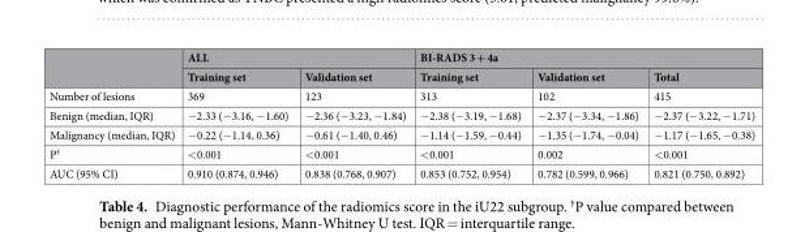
<table><thead><tr><td rowspan="2"></td><td colspan="2">ALL</td><td colspan="3">BI-RADS 3 + 4a</td></tr><tr><td>Training set</td><td>Validation set</td><td>Training set</td><td>Validation set</td><td>Total</td></tr></thead><tbody><tr><td>Number of lesions</td><td>369</td><td>123</td><td>313</td><td>102</td><td>415</td></tr><tr><td>Benign (median, IQR)</td><td>−2.33 (−3.16, −1.60)</td><td>−2.36 (−3.23, −1.84)</td><td>−2.38 (−3.19, −1.68)</td><td>−2.37 (−3.34, −1.86)</td><td>−2.37 (−3.22, −1.71)</td></tr><tr><td>Malignancy (median, IQR)</td><td>−0.22 (−1.14, 0.36)</td><td>−0.61 (−1.40, 0.46)</td><td>−1.14 (−1.59, −0.44)</td><td>−1.35 (−1.74, −0.04)</td><td>−1.17 (−1.65, −0.38)</td></tr><tr><td>P<sup>†</sup></td><td>&lt;0.001</td><td>&lt;0.001</td><td>&lt;0.001</td><td>0.002</td><td>&lt;0.001</td></tr><tr><td>AUC (95% CI)</td><td>0.910 (0.874, 0.946)</td><td>0.838 (0.768, 0.907)</td><td>0.853 (0.752, 0.954)</td><td>0.782 (0.599, 0.966)</td><td>0.821 (0.750, 0.892)</td></tr></tbody></table>